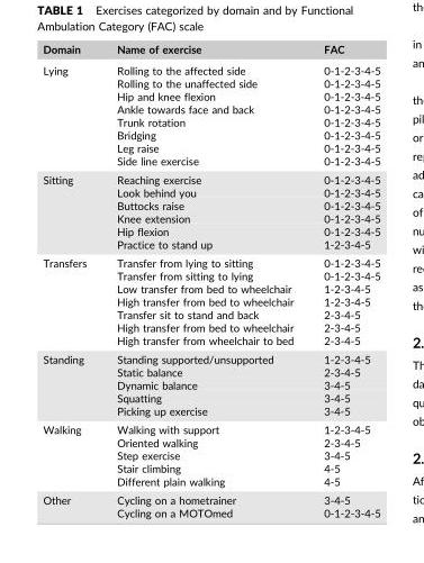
<table><thead><tr><td>Domain</td><td>Name of exercise</td><td>FAC</td></tr></thead><tbody><tr><td rowspan="8">Lying</td><td>Rolling to the affected side</td><td>0‐1‐2‐3‐4‐5</td></tr><tr><td>Rolling to the unaffected side</td><td>0‐1‐2‐3‐4‐5</td></tr><tr><td>Hip and knee flexion</td><td>0‐1‐2‐3‐4‐5</td></tr><tr><td>Ankle towards face and back</td><td>0‐1‐2‐3‐4‐5</td></tr><tr><td>Trunk rotation</td><td>0‐1‐2‐3‐4‐5</td></tr><tr><td>Bridging</td><td>0‐1‐2‐3‐4‐5</td></tr><tr><td>Leg raise</td><td>0‐1‐2‐3‐4‐5</td></tr><tr><td>Side line exercise</td><td>0‐1‐2‐3‐4‐5</td></tr><tr><td rowspan="6">Sitting</td><td>Reaching exercise</td><td>0‐1‐2‐3‐4‐5</td></tr><tr><td>Look behind you</td><td>0‐1‐2‐3‐4‐5</td></tr><tr><td>Buttocks raise</td><td>0‐1‐2‐3‐4‐5</td></tr><tr><td>Knee extension</td><td>0‐1‐2‐3‐4‐5</td></tr><tr><td>Hip flexion</td><td>0‐1‐2‐3‐4‐5</td></tr><tr><td>Practice to stand up</td><td>1‐2‐3‐4‐5</td></tr><tr><td rowspan="7">Transfers</td><td>Transfer from lying to sitting</td><td>0‐1‐2‐3‐4‐5</td></tr><tr><td>Transfer from sitting to lying</td><td>0‐1‐2‐3‐4‐5</td></tr><tr><td>Low transfer from bed to wheelchair</td><td>1‐2‐3‐4‐5</td></tr><tr><td>High transfer from bed to wheelchair</td><td>1‐2‐3‐4‐5</td></tr><tr><td>Transfer sit to stand and back</td><td>2‐3‐4‐5</td></tr><tr><td>High transfer from bed to wheelchair</td><td>2‐3‐4‐5</td></tr><tr><td>High transfer from wheelchair to bed</td><td>2‐3‐4‐5</td></tr><tr><td rowspan="5">Standing</td><td>Standing supported/unsupported</td><td>1‐2‐3‐4‐5</td></tr><tr><td>Static balance</td><td>2‐3‐4‐5</td></tr><tr><td>Dynamic balance</td><td>3‐4‐5</td></tr><tr><td>Squatting</td><td>3‐4‐5</td></tr><tr><td>Picking up exercise</td><td>3‐4‐5</td></tr><tr><td rowspan="5">Walking</td><td>Walking with support</td><td>1‐2‐3‐4‐5</td></tr><tr><td>Oriented walking</td><td>2‐3‐4‐5</td></tr><tr><td>Step exercise</td><td>3‐4‐5</td></tr><tr><td>Stair climbing</td><td>4‐5</td></tr><tr><td>Different plain walking</td><td>4‐5</td></tr><tr><td rowspan="2">Other</td><td>Cycling on a hometrainer</td><td>3‐4‐5</td></tr><tr><td>Cycling on a MOTOmed</td><td>0‐1‐2‐3‐4‐5</td></tr></tbody></table>